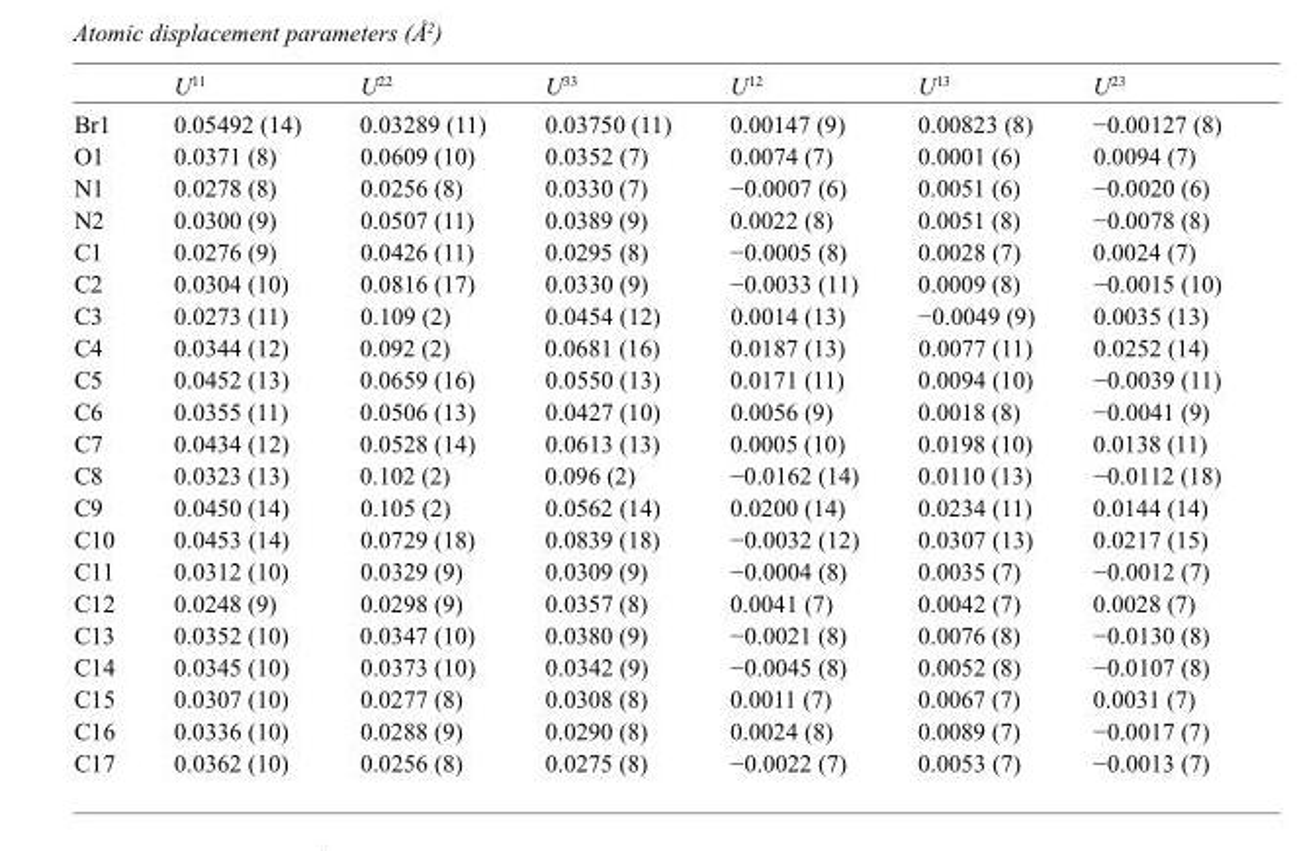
<table><thead><tr><td></td><td>U<sup>11</sup></td><td>U<sup>22</sup></td><td>U<sup>33</sup></td><td>U<sup>12</sup></td><td>U<sup>13</sup></td><td>U<sup>23</sup></td></tr></thead><tbody><tr><td>Br1</td><td>0.05492 (14)</td><td>0.03289 (11)</td><td>0.03750 (11)</td><td>0.00147 (9)</td><td>0.00823 (8)</td><td>−0.00127 (8)</td></tr><tr><td>O1</td><td>0.0371 (8)</td><td>0.0609 (10)</td><td>0.0352 (7)</td><td>0.0074 (7)</td><td>0.0001 (6)</td><td>0.0094 (7)</td></tr><tr><td>N1</td><td>0.0278 (8)</td><td>0.0256 (8)</td><td>0.0330 (7)</td><td>−0.0007 (6)</td><td>0.0051 (6)</td><td>−0.0020 (6)</td></tr><tr><td>N2</td><td>0.0300 (9)</td><td>0.0507 (11)</td><td>0.0389 (9)</td><td>0.0022 (8)</td><td>0.0051 (8)</td><td>−0.0078 (8)</td></tr><tr><td>C1</td><td>0.0276 (9)</td><td>0.0426 (11)</td><td>0.0295 (8)</td><td>−0.0005 (8)</td><td>0.0028 (7)</td><td>0.0024 (7)</td></tr><tr><td>C2</td><td>0.0304 (10)</td><td>0.0816 (17)</td><td>0.0330 (9)</td><td>−0.0033 (11)</td><td>0.0009 (8)</td><td>−0.0015 (10)</td></tr><tr><td>C3</td><td>0.0273 (11)</td><td>0.109 (2)</td><td>0.0454 (12)</td><td>0.0014 (13)</td><td>−0.0049 (9)</td><td>0.0035 (13)</td></tr><tr><td>C4</td><td>0.0344 (12)</td><td>0.092 (2)</td><td>0.0681 (16)</td><td>0.0187 (13)</td><td>0.0077 (11)</td><td>0.0252 (14)</td></tr><tr><td>C5</td><td>0.0452 (13)</td><td>0.0659 (16)</td><td>0.0550 (13)</td><td>0.0171 (11)</td><td>0.0094 (10)</td><td>−0.0039 (11)</td></tr><tr><td>C6</td><td>0.0355 (11)</td><td>0.0506 (13)</td><td>0.0427 (10)</td><td>0.0056 (9)</td><td>0.0018 (8)</td><td>−0.0041 (9)</td></tr><tr><td>C7</td><td>0.0434 (12)</td><td>0.0528 (14)</td><td>0.0613 (13)</td><td>0.0005 (10)</td><td>0.0198 (10)</td><td>0.0138 (11)</td></tr><tr><td>C8</td><td>0.0323 (13)</td><td>0.102 (2)</td><td>0.096 (2)</td><td>−0.0162 (14)</td><td>0.0110 (13)</td><td>−0.0112 (18)</td></tr><tr><td>C9</td><td>0.0450 (14)</td><td>0.105 (2)</td><td>0.0562 (14)</td><td>0.0200 (14)</td><td>0.0234 (11)</td><td>0.0144 (14)</td></tr><tr><td>C10</td><td>0.0453 (14)</td><td>0.0729 (18)</td><td>0.0839 (18)</td><td>−0.0032 (12)</td><td>0.0307 (13)</td><td>0.0217 (15)</td></tr><tr><td>C11</td><td>0.0312 (10)</td><td>0.0329 (9)</td><td>0.0309 (9)</td><td>−0.0004 (8)</td><td>0.0035 (7)</td><td>−0.0012 (7)</td></tr><tr><td>C12</td><td>0.0248 (9)</td><td>0.0298 (9)</td><td>0.0357 (8)</td><td>0.0041 (7)</td><td>0.0042 (7)</td><td>0.0028 (7)</td></tr><tr><td>C13</td><td>0.0352 (10)</td><td>0.0347 (10)</td><td>0.0380 (9)</td><td>−0.0021 (8)</td><td>0.0076 (8)</td><td>−0.0130 (8)</td></tr><tr><td>C14</td><td>0.0345 (10)</td><td>0.0373 (10)</td><td>0.0342 (9)</td><td>−0.0045 (8)</td><td>0.0052 (8)</td><td>−0.0107 (8)</td></tr><tr><td>C15</td><td>0.0307 (10)</td><td>0.0277 (8)</td><td>0.0308 (8)</td><td>0.0011 (7)</td><td>0.0067 (7)</td><td>0.0031 (7)</td></tr><tr><td>C16</td><td>0.0336 (10)</td><td>0.0288 (9)</td><td>0.0290 (8)</td><td>0.0024 (8)</td><td>0.0089 (7)</td><td>−0.0017 (7)</td></tr><tr><td>C17</td><td>0.0362 (10)</td><td>0.0256 (8)</td><td>0.0275 (8)</td><td>−0.0022 (7)</td><td>0.0053 (7)</td><td>−0.0013 (7)</td></tr></tbody></table>